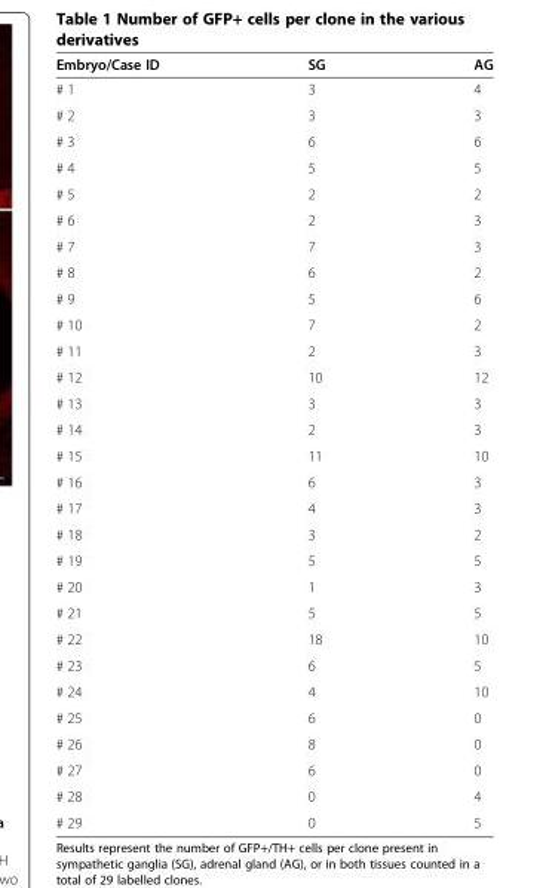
<table><thead><tr><td>Embryo/Case ID</td><td>SG</td><td>AG</td></tr></thead><tbody><tr><td># 1</td><td>3</td><td>4</td></tr><tr><td># 2</td><td>3</td><td>3</td></tr><tr><td># 3</td><td>6</td><td>6</td></tr><tr><td># 4</td><td>5</td><td>5</td></tr><tr><td># 5</td><td>2</td><td>2</td></tr><tr><td># 6</td><td>2</td><td>3</td></tr><tr><td># 7</td><td>7</td><td>3</td></tr><tr><td># 8</td><td>6</td><td>2</td></tr><tr><td># 9</td><td>5</td><td>6</td></tr><tr><td># 10</td><td>7</td><td>2</td></tr><tr><td># 11</td><td>2</td><td>3</td></tr><tr><td># 12</td><td>10</td><td>12</td></tr><tr><td># 13</td><td>3</td><td>3</td></tr><tr><td># 14</td><td>2</td><td>3</td></tr><tr><td># 15</td><td>11</td><td>10</td></tr><tr><td># 16</td><td>6</td><td>3</td></tr><tr><td># 17</td><td>4</td><td>3</td></tr><tr><td># 18</td><td>3</td><td>2</td></tr><tr><td># 19</td><td>5</td><td>5</td></tr><tr><td># 20</td><td>1</td><td>3</td></tr><tr><td># 21</td><td>5</td><td>5</td></tr><tr><td># 22</td><td>18</td><td>10</td></tr><tr><td># 23</td><td>6</td><td>5</td></tr><tr><td># 24</td><td>4</td><td>10</td></tr><tr><td># 25</td><td>6</td><td>0</td></tr><tr><td># 26</td><td>8</td><td>0</td></tr><tr><td># 27</td><td>6</td><td>0</td></tr><tr><td># 28</td><td>0</td><td>4</td></tr><tr><td># 29</td><td>0</td><td>5</td></tr></tbody></table>